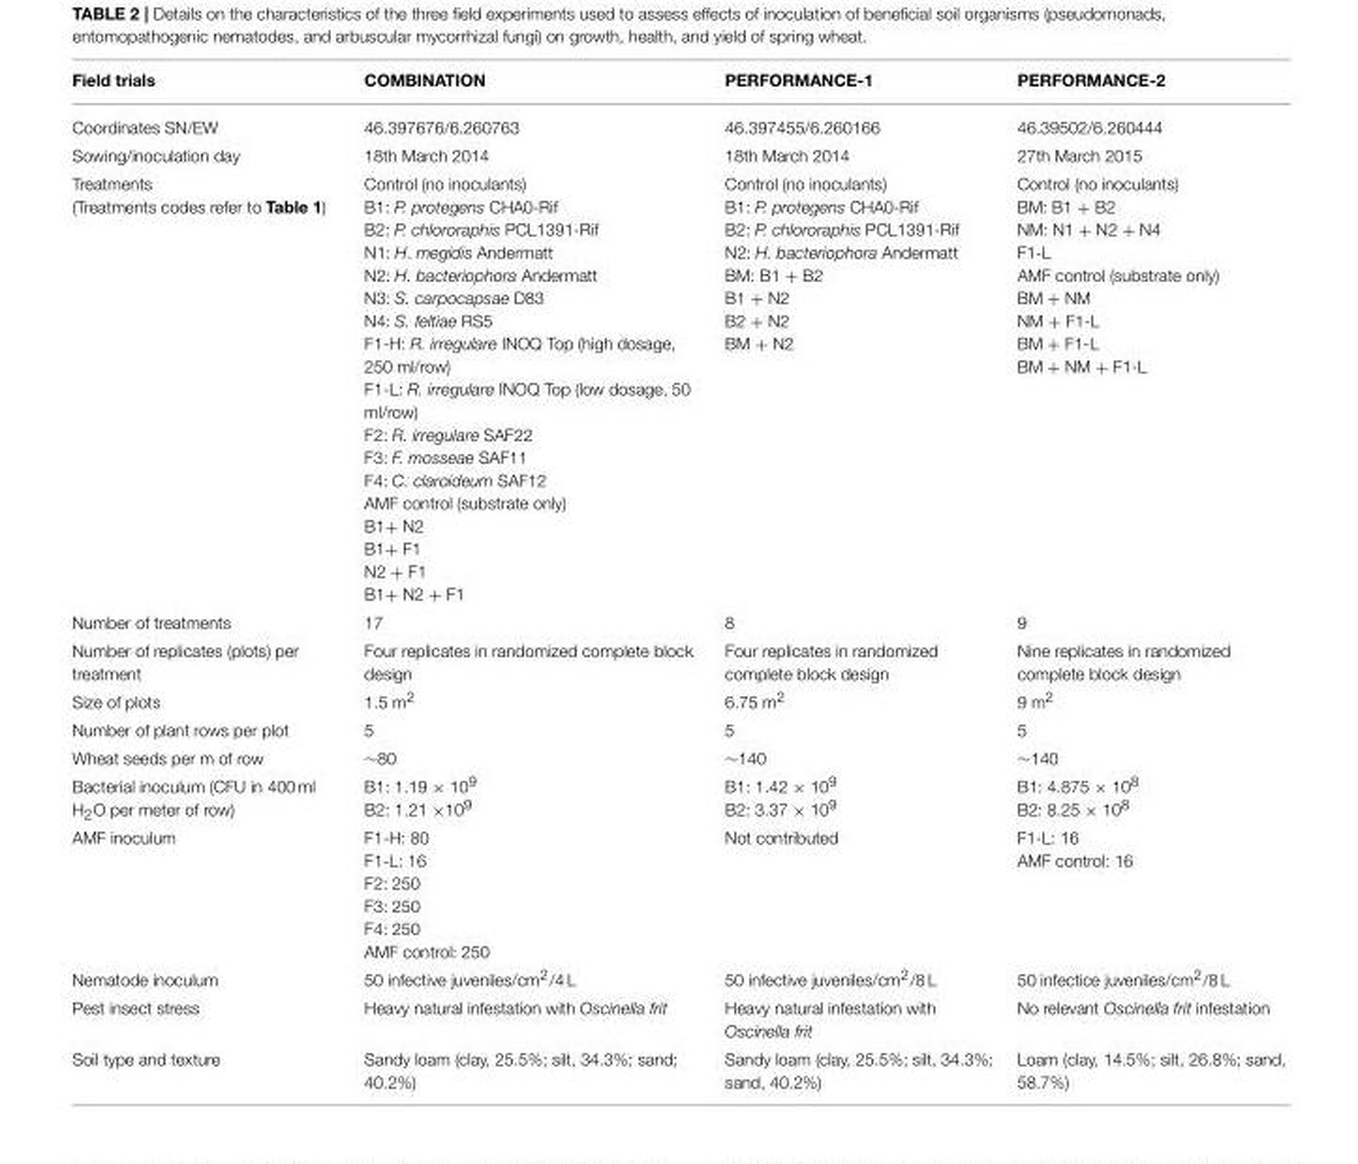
<table><thead><tr><td>Field trials</td><td>COMBINATION</td><td>PERFORMANCE-1</td><td>PERFORMANCE-2</td></tr></thead><tbody><tr><td>Coordinates SN/EW</td><td>46.397676/6.260763</td><td>46.397455/6.260166</td><td>46.39502/6.260444</td></tr><tr><td>Sowing/inoculation day</td><td>18th March 2014</td><td>18th March 2014</td><td>27th March 2015</td></tr><tr><td>Treatments (Treatments codes refer to Table 1)</td><td>Control (no inoculants) B1: P. protegens CHA0-Rif B2: P. chlororaphis PCL1391-Rif N1: H. megidis Andermatt N2: H. bacteriophora Andermatt N3: S. carpocapsae D83 N4: S. feltiae RS5 F1-H: R. irregulare INOQ Top (high dosage, 250 ml/row) F1-L: R. irregulare INOQ Top (low dosage, 50 ml/row) F2: R. irregulare SAF22 F3: F. mosseae SAF11 F4: C. claroideum SAF12 AMF control (substrate only) B1+ N2 B1+ F1 N2 + F1 B1+ N2 + F1</td><td>Control (no inoculants) B1: P. protegens CHA0-Rif B2: P. chlororaphis PCL1391-Rif N2: H. bacteriophora Andermatt BM: B1 + B2 B1 + N2 B2 + N2 BM + N2</td><td>Control (no inoculants) BM: B1 + B2 NM: N1 + N2 + N4 F1-L AMF control (substrate only) BM + NM NM + F1-L BM + F1-L BM + NM + F1-L</td></tr><tr><td>Number of treatments</td><td>17</td><td>8</td><td>9</td></tr><tr><td>Number of replicates (plots) per treatment</td><td>Four replicates in randomized complete block design</td><td>Four replicates in randomized complete block design</td><td>Nine replicates in randomized complete block design</td></tr><tr><td>Size of plots</td><td>1.5 m<sup>2</sup></td><td>6.75 m<sup>2</sup></td><td>9 m<sup>2</sup></td></tr><tr><td>Number of plant rows per plot</td><td>5</td><td>5</td><td>5</td></tr><tr><td>Wheat seeds per m of row</td><td>∼80</td><td>∼140</td><td>∼140</td></tr><tr><td>Bacterial inoculum (CFU in 400 ml H<sub>2</sub>O per meter of row)</td><td>B1: 1.19 × 10<sup>9</sup> B2: 1.21 ×10<sup>9</sup></td><td>B1: 1.42 × 10<sup>9</sup> B2: 3.37 × 10<sup>9</sup></td><td>B1: 4.875 × 10<sup>8</sup> B2: 8.25 × 10<sup>8</sup></td></tr><tr><td>AMF inoculum</td><td>F1-H: 80 F1-L: 16 F2: 250 F3: 250 F4: 250 AMF control: 250</td><td>Not contributed</td><td>F1-L: 16 AMF control: 16</td></tr><tr><td>Nematode inoculum</td><td>50 infective juveniles/cm<sup>2</sup>/4 L</td><td>50 infective juveniles/cm<sup>2</sup>/8 L</td><td>50 infectice juveniles/cm<sup>2</sup>/8 L</td></tr><tr><td>Pest insect stress</td><td>Heavy natural infestation with Oscinella frit</td><td>Heavy natural infestation with Oscinella frit</td><td>No relevant Oscinella frit infestation</td></tr><tr><td>Soil type and texture</td><td>Sandy loam (clay, 25.5%; silt, 34.3%; sand; 40.2%)</td><td>Sandy loam (clay, 25.5%; silt, 34.3%; sand, 40.2%)</td><td>Loam (clay, 14.5%; silt, 26.8%; sand, 58.7%)</td></tr></tbody></table>